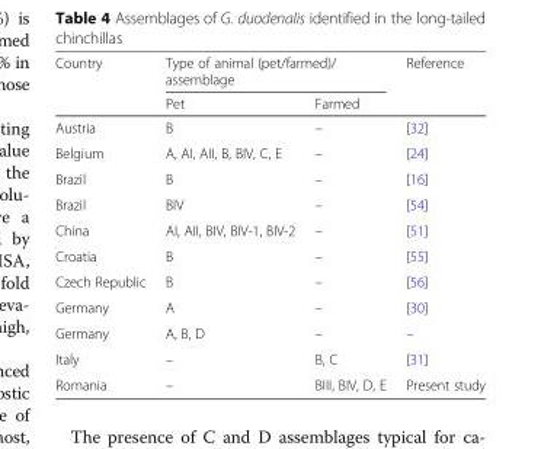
<table><thead><tr><td rowspan="2">Country</td><td colspan="2">Type of animal (pet/farmed)/ assemblage</td><td rowspan="2">Reference</td></tr><tr><td>Pet</td><td>Farmed</td></tr></thead><tbody><tr><td>Austria</td><td>B</td><td>–</td><td>[32]</td></tr><tr><td>Belgium</td><td>A, AI, AII, B, BIV, C, E</td><td>–</td><td>[24]</td></tr><tr><td>Brazil</td><td>B</td><td>–</td><td>[16]</td></tr><tr><td>Brazil</td><td>BIV</td><td>–</td><td>[54]</td></tr><tr><td>China</td><td>AI, AII, BIV, BIV-1, BIV-2</td><td>–</td><td>[51]</td></tr><tr><td>Croatia</td><td>B</td><td>–</td><td>[55]</td></tr><tr><td>Czech Republic</td><td>B</td><td>–</td><td>[56]</td></tr><tr><td>Germany</td><td>A</td><td>–</td><td>[30]</td></tr><tr><td>Germany</td><td>A, B, D</td><td>–</td><td>–</td></tr><tr><td>Italy</td><td>–</td><td>B, C</td><td>[31]</td></tr><tr><td>Romania</td><td>–</td><td>BIII, BIV, D, E</td><td>Present study</td></tr></tbody></table>